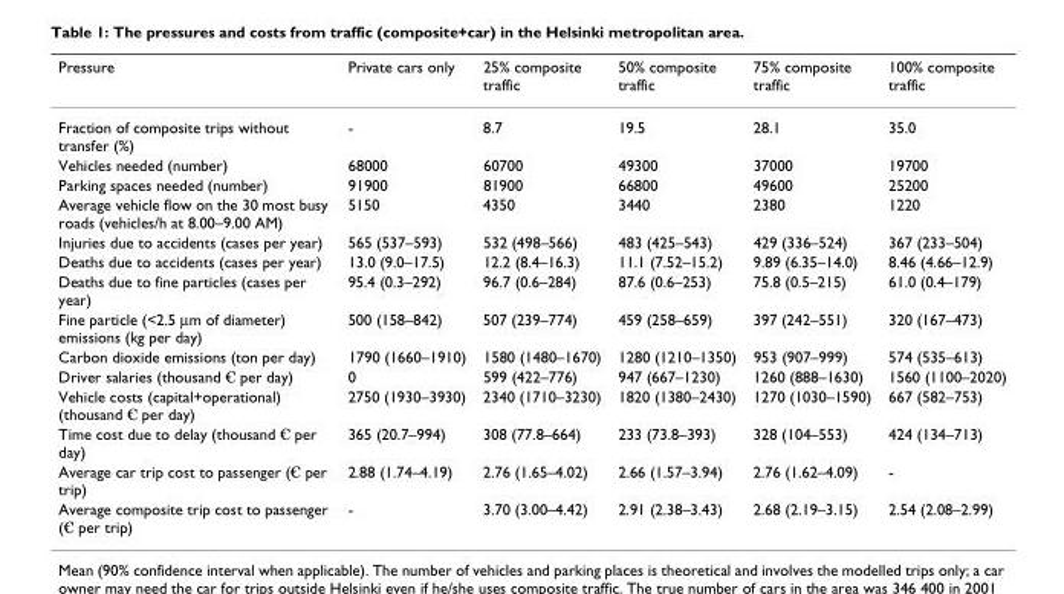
<table><thead><tr><td>Pressure</td><td>Private cars only</td><td>25% composite traffic</td><td>50% composite traffic</td><td>75% composite traffic</td><td>100% composite traffic</td></tr></thead><tbody><tr><td>Fraction of composite trips without transfer (%)</td><td>-</td><td>8.7</td><td>19.5</td><td>28.1</td><td>35.0</td></tr><tr><td>Vehicles needed (number)</td><td>68000</td><td>60700</td><td>49300</td><td>37000</td><td>19700</td></tr><tr><td>Parking spaces needed (number)</td><td>91900</td><td>81900</td><td>66800</td><td>49600</td><td>25200</td></tr><tr><td>Average vehicle flow on the 30 most busy roads (vehicles/h at 8.00–9.00 AM)</td><td>5150</td><td>4350</td><td>3440</td><td>2380</td><td>1220</td></tr><tr><td>Injuries due to accidents (cases per year)</td><td>565 (537–593)</td><td>532 (498–566)</td><td>483 (425–543)</td><td>429 (336–524)</td><td>367 (233–504)</td></tr><tr><td>Deaths due to accidents (cases per year)</td><td>13.0 (9.0–17.5)</td><td>12.2 (8.4–16.3)</td><td>11.1 (7.52–15.2)</td><td>9.89 (6.35–14.0)</td><td>8.46 (4.66–12.9)</td></tr><tr><td>Deaths due to fine particles (cases per year)</td><td>95.4 (0.3–292)</td><td>96.7 (0.6–284)</td><td>87.6 (0.6–253)</td><td>75.8 (0.5–215)</td><td>61.0 (0.4–179)</td></tr><tr><td>Fine particle (&lt;2.5 µm of diameter) emissions (kg per day)</td><td>500 (158–842)</td><td>507 (239–774)</td><td>459 (258–659)</td><td>397 (242–551)</td><td>320 (167–473)</td></tr><tr><td>Carbon dioxide emissions (ton per day)</td><td>1790 (1660–1910)</td><td>1580 (1480–1670)</td><td>1280 (1210–1350)</td><td>953 (907–999)</td><td>574 (535–613)</td></tr><tr><td>Driver salaries (thousand € per day)</td><td>0</td><td>599 (422–776)</td><td>947 (667–1230)</td><td>1260 (888–1630)</td><td>1560 (1100–2020)</td></tr><tr><td>Vehicle costs (capital+operational) (thousand € per day)</td><td>2750 (1930–3930)</td><td>2340 (1710–3230)</td><td>1820 (1380–2430)</td><td>1270 (1030–1590)</td><td>667 (582–753)</td></tr><tr><td>Time cost due to delay (thousand € per day)</td><td>365 (20.7–994)</td><td>308 (77.8–664)</td><td>233 (73.8–393)</td><td>328 (104–553)</td><td>424 (134–713)</td></tr><tr><td>Average car trip cost to passenger (€ per trip)</td><td>2.88 (1.74–4.19)</td><td>2.76 (1.65–4.02)</td><td>2.66 (1.57–3.94)</td><td>2.76 (1.62–4.09)</td><td>-</td></tr><tr><td>Average composite trip cost to passenger (€ per trip)</td><td>-</td><td>3.70 (3.00–4.42)</td><td>2.91 (2.38–3.43)</td><td>2.68 (2.19–3.15)</td><td>2.54 (2.08–2.99)</td></tr></tbody></table>